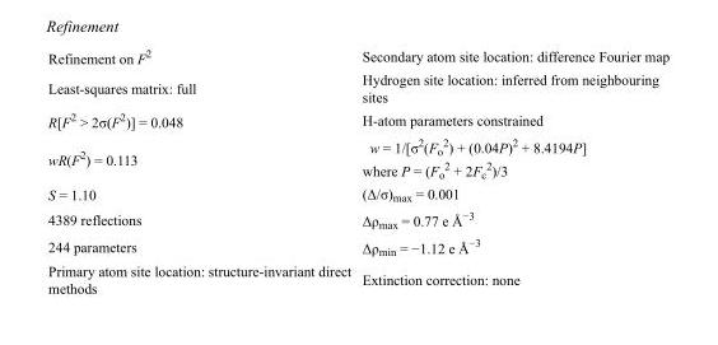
<table><tbody><tr><td>Refinement on F<sup>2</sup></td><td>Secondary atom site location: difference Fourier map</td></tr><tr><td>Least-squares matrix: full</td><td>Hydrogen site location: inferred from neighbouring sites</td></tr><tr><td>R[F<sup>2</sup> &gt; 2σ(F<sup>2</sup>)] = 0.048</td><td>H-atom parameters constrained</td></tr><tr><td>wR(F<sup>2</sup>) = 0.113</td><td>w = 1/[σ<sup>2</sup>(F<sub>o</sub> <sup>2</sup>) + (0.04P)<sup>2</sup> + 8.4194P] where P = (F<sub>o</sub> <sup>2</sup> + 2F<sub>c</sub> <sup>2</sup>)/3</td></tr><tr><td>S = 1.10</td><td>(Δ/σ)<sub>max</sub> = 0.001</td></tr><tr><td>4389 reflections</td><td>Δρ<sub>max</sub> = 0.77 e Å<sup>−3</sup></td></tr><tr><td>244 parameters</td><td>Δρ<sub>min</sub> = −1.12 e Å<sup>−3</sup></td></tr><tr><td>Primary atom site location: structure-invariant direct methods</td><td>Extinction correction: none</td></tr></tbody></table>